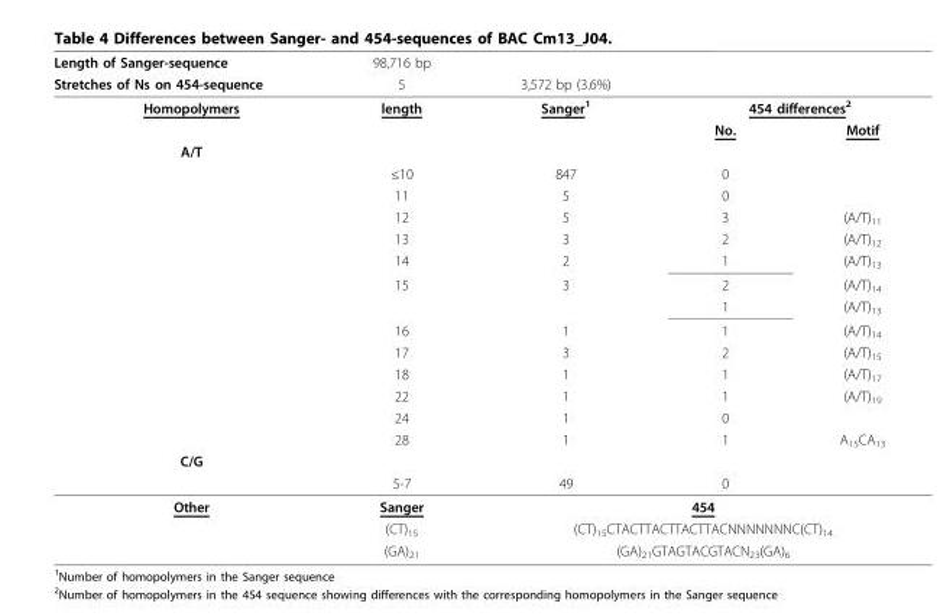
<table><thead><tr><td rowspan="2">Length of Sanger-sequence Stretches of Ns on 454-sequence</td><td rowspan="2">98,716 bp 5</td><td rowspan="2">3,572 bp (3.6%)</td><td rowspan="2"></td><td rowspan="2"></td></tr><tr></tr></thead><tbody><tr><td rowspan="2">Homopolymers</td><td>length</td><td>Sanger<sup>1</sup></td><td colspan="2">454 differences<sup>2</sup></td></tr><tr><td></td><td></td><td>No.</td><td>Motif</td></tr><tr><td colspan="5">A/T</td></tr><tr><td></td><td>≤10</td><td>847</td><td>0</td><td></td></tr><tr><td></td><td>11</td><td>5</td><td>0</td><td></td></tr><tr><td></td><td>12</td><td>5</td><td>3</td><td>(A/T)<sub>11</sub></td></tr><tr><td></td><td>13</td><td>3</td><td>2</td><td>(A/T)<sub>12</sub></td></tr><tr><td></td><td>14</td><td>2</td><td>1</td><td>(A/T)<sub>13</sub></td></tr><tr><td></td><td>15</td><td>3</td><td>2</td><td>(A/T)<sub>14</sub></td></tr><tr><td></td><td></td><td></td><td>1</td><td>(A/T)<sub>13</sub></td></tr><tr><td></td><td>16</td><td>1</td><td>1</td><td>(A/T)<sub>14</sub></td></tr><tr><td></td><td>17</td><td>3</td><td>2</td><td>(A/T)<sub>15</sub></td></tr><tr><td></td><td>18</td><td>1</td><td>1</td><td>(A/T)<sub>17</sub></td></tr><tr><td></td><td>22</td><td>1</td><td>1</td><td>(A/T)<sub>19</sub></td></tr><tr><td></td><td>24</td><td>1</td><td>0</td><td></td></tr><tr><td></td><td>28</td><td>1</td><td>1</td><td>A<sub>15</sub>CA<sub>13</sub></td></tr><tr><td colspan="5">C/G</td></tr><tr><td></td><td>5-7</td><td>49</td><td>0</td><td></td></tr><tr><td rowspan="3">Other</td><td>Sanger</td><td colspan="3">454</td></tr><tr><td>(CT)<sub>15</sub></td><td colspan="3">(CT)<sub>15</sub>CTACTTACTTACTTACNNNNNNNC(CT)<sub>14</sub></td></tr><tr><td>(GA)<sub>21</sub></td><td colspan="3">(GA)<sub>21</sub>GTAGTACGTACN<sub>23</sub>(GA)<sub>6</sub></td></tr></tbody></table>